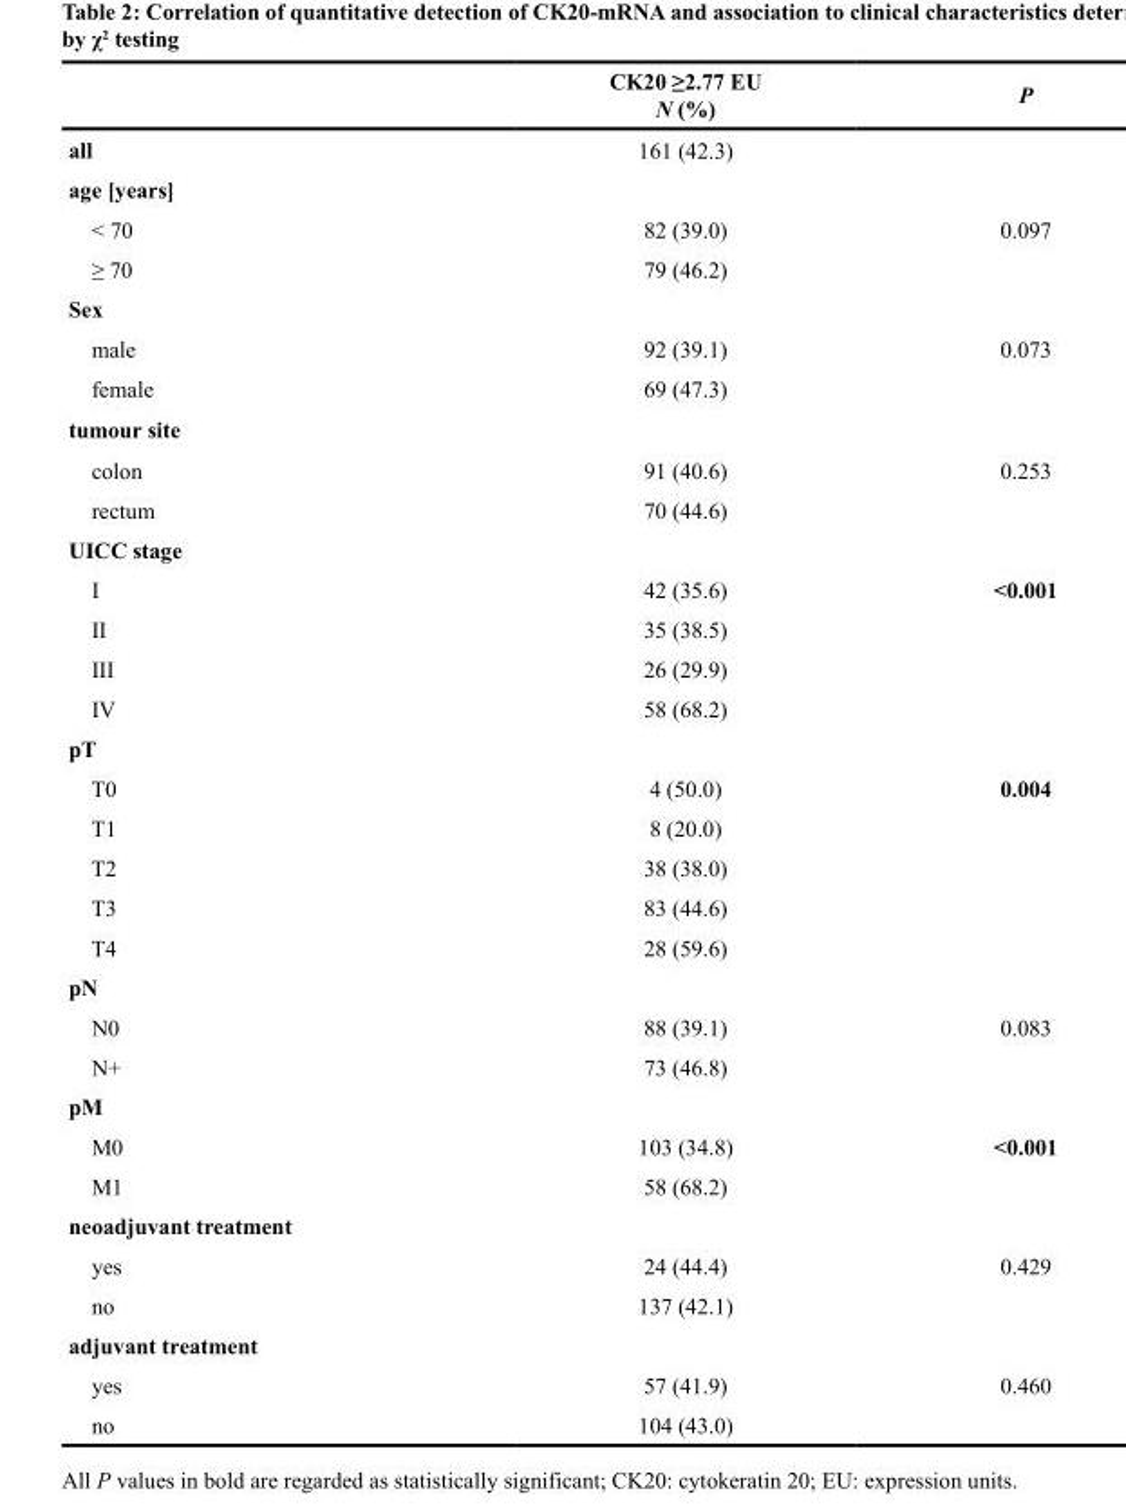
<table><thead><tr><td></td><td>CK20 ≥2.77 EU N (%)</td><td>P</td></tr></thead><tbody><tr><td>all</td><td>161 (42.3)</td><td></td></tr><tr><td colspan="3">age [years]</td></tr><tr><td>&lt; 70</td><td>82 (39.0)</td><td>0.097</td></tr><tr><td>≥ 70</td><td>79 (46.2)</td><td></td></tr><tr><td colspan="3">Sex</td></tr><tr><td>male</td><td>92 (39.1)</td><td>0.073</td></tr><tr><td>female</td><td>69 (47.3)</td><td></td></tr><tr><td colspan="3">tumour site</td></tr><tr><td>colon</td><td>91 (40.6)</td><td>0.253</td></tr><tr><td>rectum</td><td>70 (44.6)</td><td></td></tr><tr><td colspan="3">UICC stage</td></tr><tr><td>I</td><td>42 (35.6)</td><td>&lt;0.001</td></tr><tr><td>II</td><td>35 (38.5)</td><td></td></tr><tr><td>III</td><td>26 (29.9)</td><td></td></tr><tr><td>IV</td><td>58 (68.2)</td><td></td></tr><tr><td colspan="3">pT</td></tr><tr><td>T0</td><td>4 (50.0)</td><td>0.004</td></tr><tr><td>T1</td><td>8 (20.0)</td><td></td></tr><tr><td>T2</td><td>38 (38.0)</td><td></td></tr><tr><td>T3</td><td>83 (44.6)</td><td></td></tr><tr><td>T4</td><td>28 (59.6)</td><td></td></tr><tr><td colspan="3">pN</td></tr><tr><td>N0</td><td>88 (39.1)</td><td>0.083</td></tr><tr><td>N+</td><td>73 (46.8)</td><td></td></tr><tr><td colspan="3">pM</td></tr><tr><td>M0</td><td>103 (34.8)</td><td>&lt;0.001</td></tr><tr><td>M1</td><td>58 (68.2)</td><td></td></tr><tr><td colspan="3">neoadjuvant treatment</td></tr><tr><td>yes</td><td>24 (44.4)</td><td>0.429</td></tr><tr><td>no</td><td>137 (42.1)</td><td></td></tr><tr><td colspan="3">adjuvant treatment</td></tr><tr><td>yes</td><td>57 (41.9)</td><td>0.460</td></tr><tr><td>no</td><td>104 (43.0)</td><td></td></tr></tbody></table>